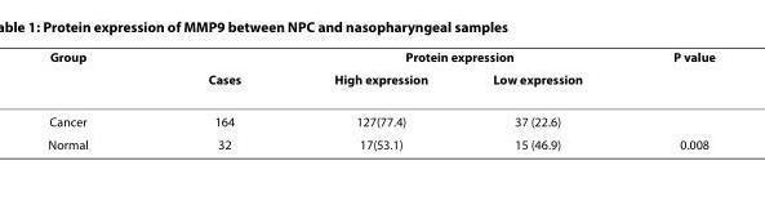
<table><thead><tr><td rowspan="2">Group</td><td rowspan="2">Cases</td><td colspan="2">Protein expression</td><td rowspan="2">P value</td></tr><tr><td>High expression</td><td>Low expression</td></tr></thead><tbody><tr><td>Cancer</td><td>164</td><td>127(77.4)</td><td>37 (22.6)</td><td></td></tr><tr><td>Normal</td><td>32</td><td>17(53.1)</td><td>15 (46.9)</td><td>0.008</td></tr></tbody></table>